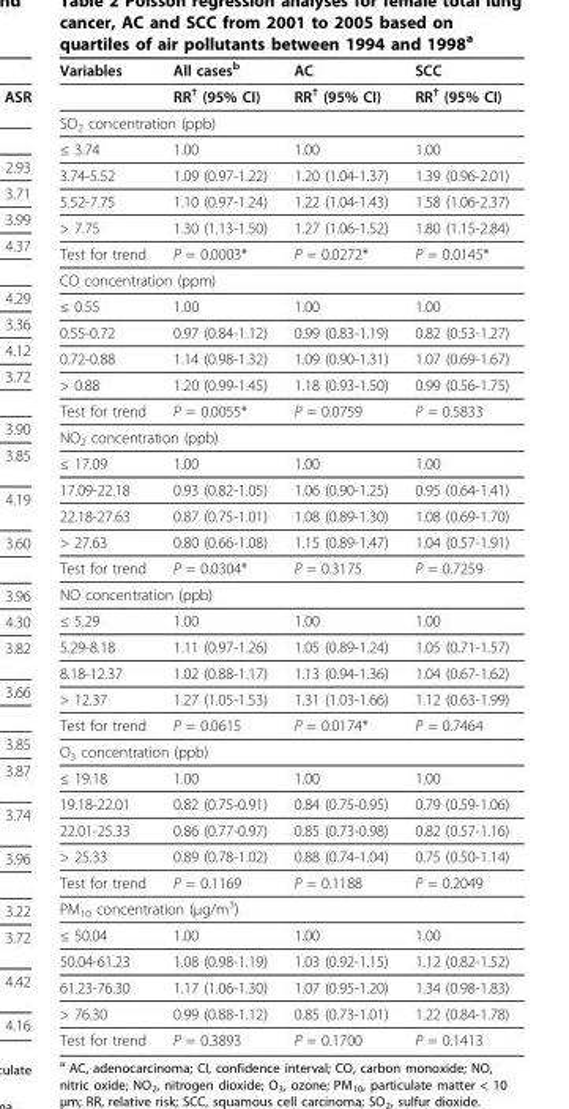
<table><thead><tr><td>Variables</td><td>All cases<sup>b</sup></td><td>AC</td><td>SCC</td></tr></thead><tbody><tr><td></td><td>RR<sup>†</sup> (95% CI)</td><td>RR<sup>†</sup> (95% CI)</td><td>RR<sup>†</sup> (95% CI)</td></tr><tr><td colspan="4">SO<sub>2</sub> concentration (ppb)</td></tr><tr><td>≤ 3.74</td><td>1.00</td><td>1.00</td><td>1.00</td></tr><tr><td>3.74-5.52</td><td>1.09 (0.97-1.22)</td><td>1.20 (1.04-1.37)</td><td>1.39 (0.96-2.01)</td></tr><tr><td>5.52-7.75</td><td>1.10 (0.97-1.24)</td><td>1.22 (1.04-1.43)</td><td>1.58 (1.06-2.37)</td></tr><tr><td>&gt; 7.75</td><td>1.30 (1.13-1.50)</td><td>1.27 (1.06-1.52)</td><td>1.80 (1.15-2.84)</td></tr><tr><td>Test for trend</td><td>P = 0.0003*</td><td>P = 0.0272*</td><td>P = 0.0145*</td></tr><tr><td colspan="4">CO concentration (ppm)</td></tr><tr><td>≤ 0.55</td><td>1.00</td><td>1.00</td><td>1.00</td></tr><tr><td>0.55-0.72</td><td>0.97 (0.84-1.12)</td><td>0.99 (0.83-1.19)</td><td>0.82 (0.53-1.27)</td></tr><tr><td>0.72-0.88</td><td>1.14 (0.98-1.32)</td><td>1.09 (0.90-1.31)</td><td>1.07 (0.69-1.67)</td></tr><tr><td>&gt; 0.88</td><td>1.20 (0.99-1.45)</td><td>1.18 (0.93-1.50)</td><td>0.99 (0.56-1.75)</td></tr><tr><td>Test for trend</td><td>P = 0.0055*</td><td>P = 0.0759</td><td>P = 0.5833</td></tr><tr><td colspan="4">NO<sub>2</sub> concentration (ppb)</td></tr><tr><td>≤ 17.09</td><td>1.00</td><td>1.00</td><td>1.00</td></tr><tr><td>17.09-22.18</td><td>0.93 (0.82-1.05)</td><td>1.06 (0.90-1.25)</td><td>0.95 (0.64-1.41)</td></tr><tr><td>22.18-27.63</td><td>0.87 (0.75-1.01)</td><td>1.08 (0.89-1.30)</td><td>1.08 (0.69-1.70)</td></tr><tr><td>&gt; 27.63</td><td>0.80 (0.66-1.08)</td><td>1.15 (0.89-1.47)</td><td>1.04 (0.57-1.91)</td></tr><tr><td>Test for trend</td><td>P = 0.0304*</td><td>P = 0.3175</td><td>P = 0.7259</td></tr><tr><td colspan="4">NO concentration (ppb)</td></tr><tr><td>≤ 5.29</td><td>1.00</td><td>1.00</td><td>1.00</td></tr><tr><td>5.29-8.18</td><td>1.11 (0.97-1.26)</td><td>1.05 (0.89-1.24)</td><td>1.05 (0.71-1.57)</td></tr><tr><td>8.18-12.37</td><td>1.02 (0.88-1.17)</td><td>1.13 (0.94-1.36)</td><td>1.04 (0.67-1.62)</td></tr><tr><td>&gt; 12.37</td><td>1.27 (1.05-1.53)</td><td>1.31 (1.03-1.66)</td><td>1.12 (0.63-1.99)</td></tr><tr><td>Test for trend</td><td>P = 0.0615</td><td>P = 0.0174*</td><td>P = 0.7464</td></tr><tr><td colspan="4">O<sub>3</sub> concentration (ppb)</td></tr><tr><td>≤ 19.18</td><td>1.00</td><td>1.00</td><td>1.00</td></tr><tr><td>19.18-22.01</td><td>0.82 (0.75-0.91)</td><td>0.84 (0.75-0.95)</td><td>0.79 (0.59-1.06)</td></tr><tr><td>22.01-25.33</td><td>0.86 (0.77-0.97)</td><td>0.85 (0.73-0.98)</td><td>0.82 (0.57-1.16)</td></tr><tr><td>&gt; 25.33</td><td>0.89 (0.78-1.02)</td><td>0.88 (0.74-1.04)</td><td>0.75 (0.50-1.14)</td></tr><tr><td>Test for trend</td><td>P = 0.1169</td><td>P = 0.1188</td><td>P = 0.2049</td></tr><tr><td colspan="4">PM<sub>10</sub> concentration (μg/m<sup>3</sup>)</td></tr><tr><td>≤ 50.04</td><td>1.00</td><td>1.00</td><td>1.00</td></tr><tr><td>50.04-61.23</td><td>1.08 (0.98-1.19)</td><td>1.03 (0.92-1.15)</td><td>1.12 (0.82-1.52)</td></tr><tr><td>61.23-76.30</td><td>1.17 (1.06-1.30)</td><td>1.07 (0.95-1.20)</td><td>1.34 (0.98-1.83)</td></tr><tr><td>&gt; 76.30</td><td>0.99 (0.88-1.12)</td><td>0.85 (0.73-1.01)</td><td>1.22 (0.84-1.78)</td></tr><tr><td>Test for trend</td><td>P = 0.3893</td><td>P = 0.1700</td><td>P = 0.1413</td></tr></tbody></table>